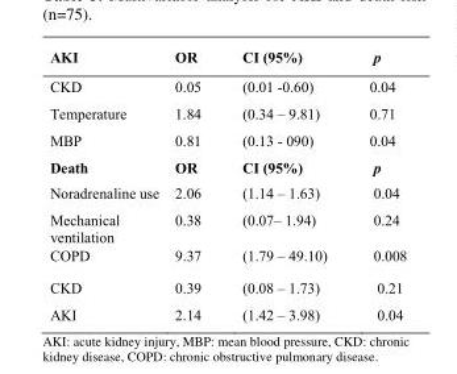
<table><thead><tr><td>AKI</td><td>OR</td><td>CI (95%)</td><td>p</td></tr></thead><tbody><tr><td>CKD</td><td>0.05</td><td>(0.01 -0.60)</td><td>0.04</td></tr><tr><td>Temperature</td><td>1.84</td><td>(0.34 – 9.81)</td><td>0.71</td></tr><tr><td>MBP</td><td>0.81</td><td>(0.13 - 090)</td><td>0.04</td></tr><tr><td>Death</td><td>OR</td><td>CI (95%)</td><td>p</td></tr><tr><td>Noradrenaline use</td><td>2.06</td><td>(1.14 – 1.63)</td><td>0.04</td></tr><tr><td>Mechanical ventilation</td><td>0.38</td><td>(0.07– 1.94)</td><td>0.24</td></tr><tr><td>COPD</td><td>9.37</td><td>(1.79 – 49.10)</td><td>0.008</td></tr><tr><td>CKD</td><td>0.39</td><td>(0.08 – 1.73)</td><td>0.21</td></tr><tr><td>AKI</td><td>2.14</td><td>(1.42 – 3.98)</td><td>0.04</td></tr></tbody></table>